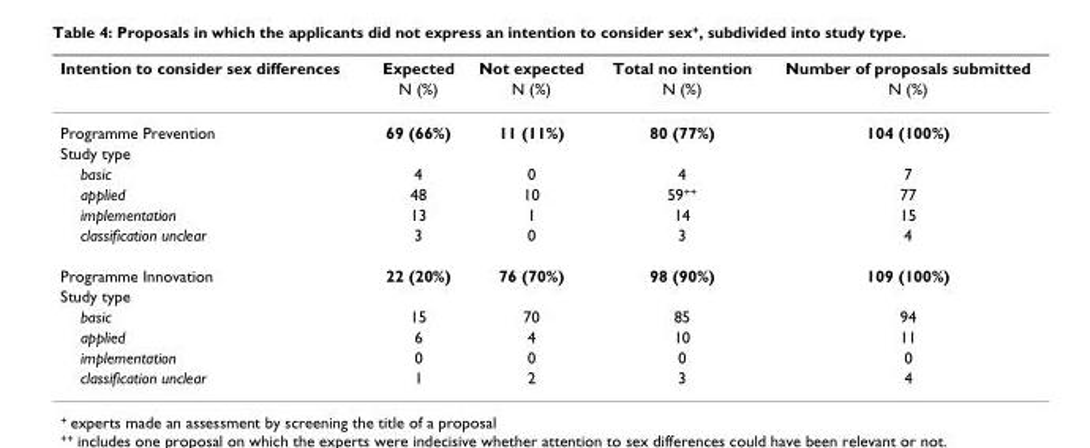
<table><thead><tr><td rowspan="2">Intention to consider sex differences</td><td rowspan="2">Expected N (%)</td><td rowspan="2">Not expected N (%)</td><td rowspan="2">Total no intention N (%)</td><td rowspan="2">Number of proposals submitted N (%)</td></tr><tr></tr></thead><tbody><tr><td>Programme Prevention</td><td>69 (66%)</td><td>11 (11%)</td><td>80 (77%)</td><td>104 (100%)</td></tr><tr><td colspan="5">Study type</td></tr><tr><td>basic</td><td>4</td><td>0</td><td>4</td><td>7</td></tr><tr><td>applied</td><td>48</td><td>10</td><td>59<sup>++</sup></td><td>77</td></tr><tr><td>implementation</td><td>13</td><td>1</td><td>14</td><td>15</td></tr><tr><td>classification unclear</td><td>3</td><td>0</td><td>3</td><td>4</td></tr><tr><td>Programme Innovation</td><td>22 (20%)</td><td>76 (70%)</td><td>98 (90%)</td><td>109 (100%)</td></tr><tr><td colspan="5">Study type</td></tr><tr><td>basic</td><td>15</td><td>70</td><td>85</td><td>94</td></tr><tr><td>applied</td><td>6</td><td>4</td><td>10</td><td>11</td></tr><tr><td>implementation</td><td>0</td><td>0</td><td>0</td><td>0</td></tr><tr><td>classification unclear</td><td>1</td><td>2</td><td>3</td><td>4</td></tr></tbody></table>